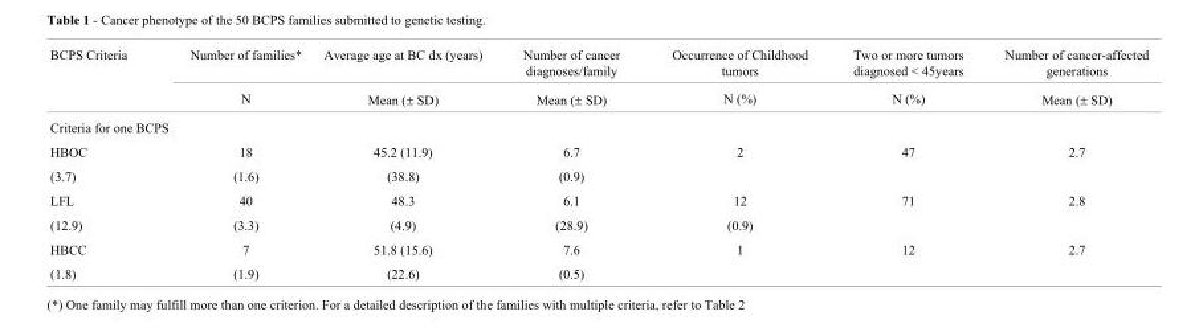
<table><thead><tr><td rowspan="2">BCPS Criteria</td><td rowspan="2">Number of families* N</td><td rowspan="2">Average age at BC dx (years) Mean (± SD)</td><td rowspan="2">Number of cancer diagnoses/family Mean (± SD)</td><td rowspan="2">Occurrence of Childhood tumors N (%)</td><td rowspan="2">Two or more tumors diagnosed &lt; 45years N (%)</td><td rowspan="2">Number of cancer-affected generations Mean (± SD)</td></tr><tr></tr></thead><tbody><tr><td colspan="7">Criteria for one BCPS</td></tr><tr><td>HBOC</td><td>18</td><td>45.2 (11.9)</td><td>6.7</td><td>2</td><td>47</td><td>2.7</td></tr><tr><td>(3.7)</td><td>(1.6)</td><td>(38.8)</td><td>(0.9)</td><td></td><td></td><td></td></tr><tr><td>LFL</td><td>40</td><td>48.3</td><td>6.1</td><td>12</td><td>71</td><td>2.8</td></tr><tr><td>(12.9)</td><td>(3.3)</td><td>(4.9)</td><td>(28.9)</td><td>(0.9)</td><td></td><td></td></tr><tr><td>HBCC</td><td>7</td><td>51.8 (15.6)</td><td>7.6</td><td>1</td><td>12</td><td>2.7</td></tr><tr><td>(1.8)</td><td>(1.9)</td><td>(22.6)</td><td>(0.5)</td><td></td><td></td><td></td></tr></tbody></table>